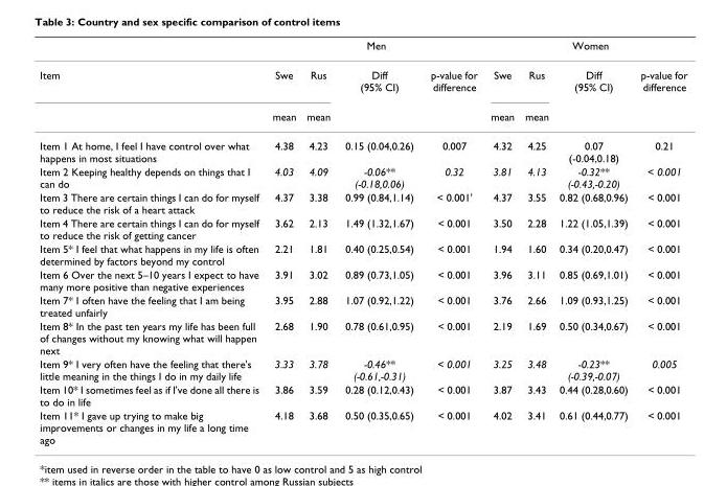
<table><thead><tr><td rowspan="2">Item</td><td colspan="4">Men</td><td colspan="4">Women</td></tr><tr><td>Swe</td><td>Rus</td><td>Diff (95% CI)</td><td>p-value for difference</td><td>Swe</td><td>Rus</td><td>Diff (95% CI)</td><td>p-value for difference</td></tr></thead><tbody><tr><td></td><td>mean</td><td>mean</td><td></td><td></td><td>mean</td><td>mean</td><td></td><td></td></tr><tr><td>Item 1 At home, I feel I have control over what happens in most situations</td><td>4.38</td><td>4.23</td><td>0.15 (0.04,0.26)</td><td>0.007</td><td>4.32</td><td>4.25</td><td>0.07 (-0.04,0.18)</td><td>0.21</td></tr><tr><td>Item 2 Keeping healthy depends on things that I can do</td><td>4.03</td><td>4.09</td><td>-0.06** (-0.18,0.06)</td><td>0.32</td><td>3.81</td><td>4.13</td><td>-0.32** (-0.43,-0.20)</td><td>&lt; 0.001</td></tr><tr><td>Item 3 There are certain things I can do for myself to reduce the risk of a heart attack</td><td>4.37</td><td>3.38</td><td>0.99 (0.84,1.14)</td><td>&lt; 0.001&#x27;</td><td>4.37</td><td>3.55</td><td>0.82 (0.68,0.96)</td><td>&lt; 0.001</td></tr><tr><td>Item 4 There are certain things I can do for myself to reduce the risk of getting cancer</td><td>3.62</td><td>2.13</td><td>1.49 (1.32,1.67)</td><td>&lt; 0.001</td><td>3.50</td><td>2.28</td><td>1.22 (1.05,1.39)</td><td>&lt; 0.001</td></tr><tr><td>Item 5* I feel that what happens in my life is often determined by factors beyond my control</td><td>2.21</td><td>1.81</td><td>0.40 (0.25,0.54)</td><td>&lt; 0.001</td><td>1.94</td><td>1.60</td><td>0.34 (0.20,0.47)</td><td>&lt; 0.001</td></tr><tr><td>Item 6 Over the next 5–10 years I expect to have many more positive than negative experiences</td><td>3.91</td><td>3.02</td><td>0.89 (0.73,1.05)</td><td>&lt; 0.001</td><td>3.96</td><td>3.11</td><td>0.85 (0.69,1.01)</td><td>&lt; 0.001</td></tr><tr><td>Item 7* I often have the feeling that I am being treated unfairly</td><td>3.95</td><td>2.88</td><td>1.07 (0.92,1.22)</td><td>&lt; 0.001</td><td>3.76</td><td>2.66</td><td>1.09 (0.93,1.25)</td><td>&lt; 0.001</td></tr><tr><td>Item 8* In the past ten years my life has been full of changes without my knowing what will happen next</td><td>2.68</td><td>1.90</td><td>0.78 (0.61,0.95)</td><td>&lt; 0.001</td><td>2.19</td><td>1.69</td><td>0.50 (0.34,0.67)</td><td>&lt; 0.001</td></tr><tr><td>Item 9* I very often have the feeling that there&#x27;s little meaning in the things I do in my daily life</td><td>3.33</td><td>3.78</td><td>-0.46** (-0.61,-0.31)</td><td>&lt; 0.001</td><td>3.25</td><td>3.48</td><td>-0.23** (-0.39,-0.07)</td><td>0.005</td></tr><tr><td>Item 10* I sometimes feel as if I&#x27;ve done all there is to do in life</td><td>3.86</td><td>3.59</td><td>0.28 (0.12,0.43)</td><td>&lt; 0.001</td><td>3.87</td><td>3.43</td><td>0.44 (0.28,0.60)</td><td>&lt; 0.001</td></tr><tr><td>Item 11* I gave up trying to make big improvements or changes in my life a long time ago</td><td>4.18</td><td>3.68</td><td>0.50 (0.35,0.65)</td><td>&lt; 0.001</td><td>4.02</td><td>3.41</td><td>0.61 (0.44,0.77)</td><td>&lt; 0.001</td></tr></tbody></table>